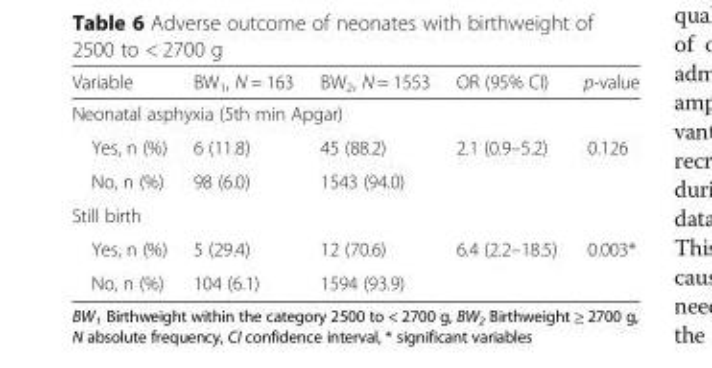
<table><thead><tr><td>Variable</td><td>BW<sub>1</sub>, N = 163</td><td>BW<sub>2</sub>, N = 1553</td><td>OR (95% CI)</td><td>p-value</td></tr></thead><tbody><tr><td colspan="5">Neonatal asphyxia (5th min Apgar)</td></tr><tr><td>Yes, n (%)</td><td>6 (11.8)</td><td>45 (88.2)</td><td>2.1 (0.9–5.2)</td><td>0.126</td></tr><tr><td>No, n (%)</td><td>98 (6.0)</td><td>1543 (94.0)</td><td></td><td></td></tr><tr><td colspan="5">Still birth</td></tr><tr><td>Yes, n (%)</td><td>5 (29.4)</td><td>12 (70.6)</td><td>6.4 (2.2–18.5)</td><td>0.003*</td></tr><tr><td>No, n (%)</td><td>104 (6.1)</td><td>1594 (93.9)</td><td></td><td></td></tr></tbody></table>